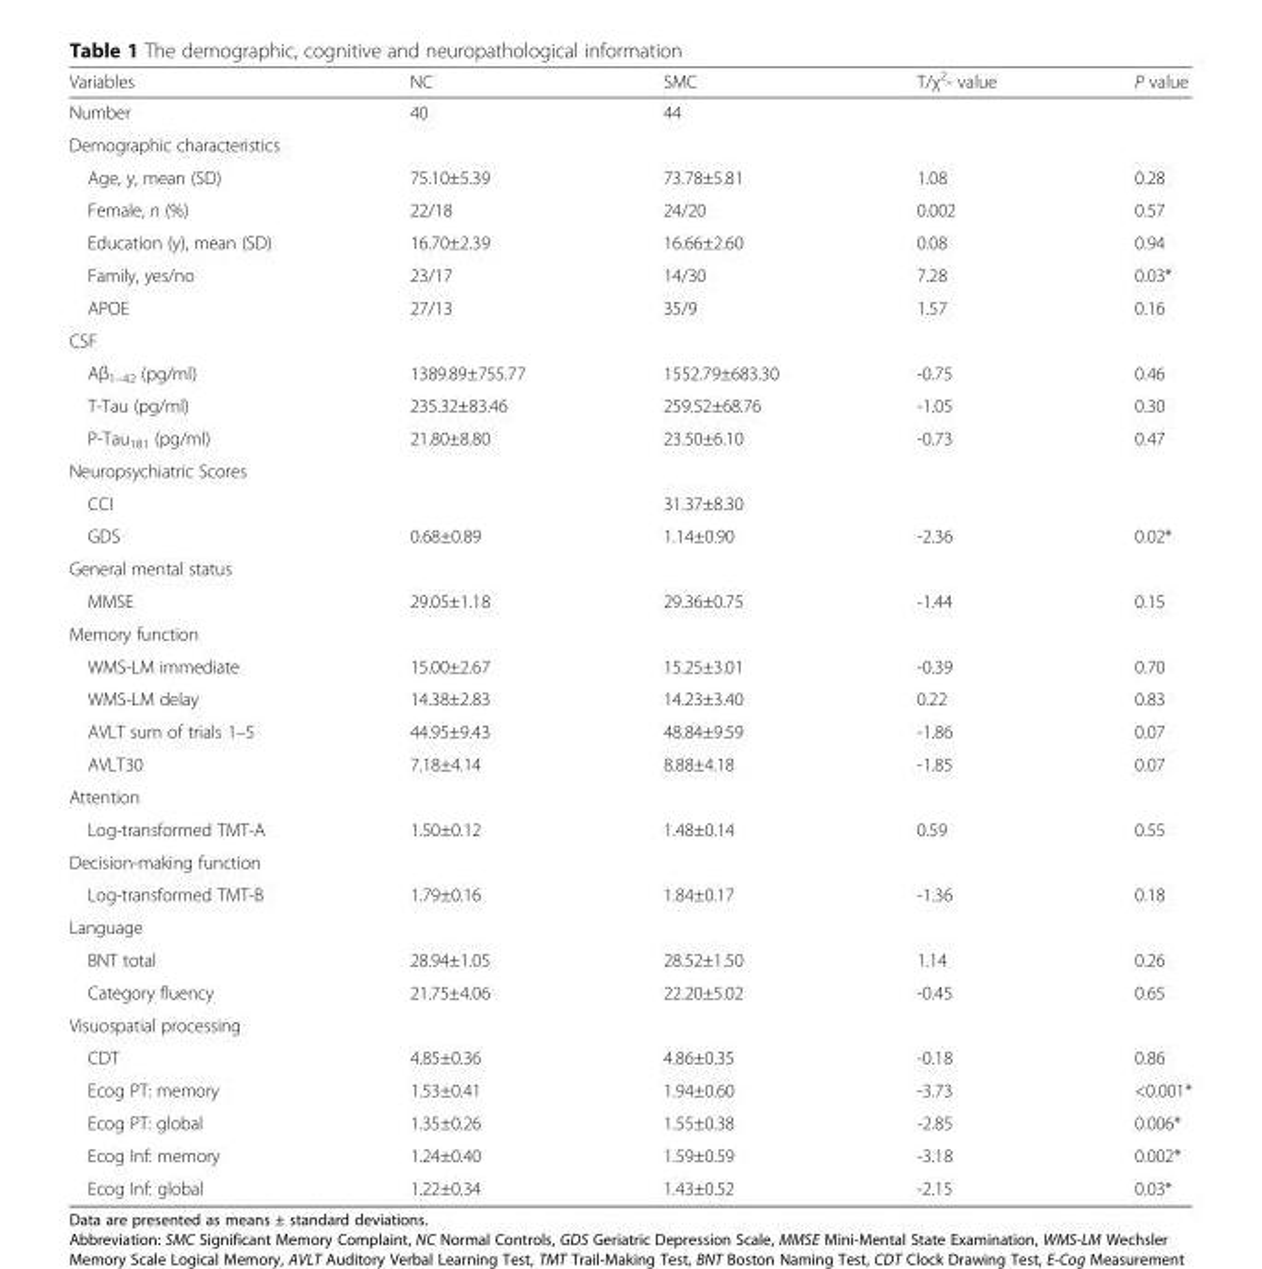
<table><thead><tr><td>Variables</td><td>NC</td><td>SMC</td><td>T/χ<sup>2</sup>- value</td><td>P value</td></tr></thead><tbody><tr><td>Number</td><td>40</td><td>44</td><td></td><td></td></tr><tr><td colspan="5">Demographic characteristics</td></tr><tr><td>Age, y, mean (SD)</td><td>75.10±5.39</td><td>73.78±5.81</td><td>1.08</td><td>0.28</td></tr><tr><td>Female, n (%)</td><td>22/18</td><td>24/20</td><td>0.002</td><td>0.57</td></tr><tr><td>Education (y), mean (SD)</td><td>16.70±2.39</td><td>16.66±2.60</td><td>0.08</td><td>0.94</td></tr><tr><td>Family, yes/no</td><td>23/17</td><td>14/30</td><td>7.28</td><td>0.03*</td></tr><tr><td>APOE</td><td>27/13</td><td>35/9</td><td>1.57</td><td>0.16</td></tr><tr><td colspan="5">CSF</td></tr><tr><td>Aβ<sub>1–42</sub> (pg/ml)</td><td>1389.89±755.77</td><td>1552.79±683.30</td><td>-0.75</td><td>0.46</td></tr><tr><td>T-Tau (pg/ml)</td><td>235.32±83.46</td><td>259.52±68.76</td><td>-1.05</td><td>0.30</td></tr><tr><td>P-Tau<sub>181</sub> (pg/ml)</td><td>21.80±8.80</td><td>23.50±6.10</td><td>-0.73</td><td>0.47</td></tr><tr><td colspan="5">Neuropsychiatric Scores</td></tr><tr><td>CCI</td><td></td><td>31.37±8.30</td><td colspan="2"></td></tr><tr><td>GDS</td><td>0.68±0.89</td><td>1.14±0.90</td><td>-2.36</td><td>0.02*</td></tr><tr><td colspan="5">General mental status</td></tr><tr><td>MMSE</td><td>29.05±1.18</td><td>29.36±0.75</td><td>-1.44</td><td>0.15</td></tr><tr><td colspan="5">Memory function</td></tr><tr><td>WMS-LM immediate</td><td>15.00±2.67</td><td>15.25±3.01</td><td>-0.39</td><td>0.70</td></tr><tr><td>WMS-LM delay</td><td>14.38±2.83</td><td>14.23±3.40</td><td>0.22</td><td>0.83</td></tr><tr><td>AVLT sum of trials 1–5</td><td>44.95±9.43</td><td>48.84±9.59</td><td>-1.86</td><td>0.07</td></tr><tr><td>AVLT30</td><td>7.18±4.14</td><td>8.88±4.18</td><td>-1.85</td><td>0.07</td></tr><tr><td colspan="5">Attention</td></tr><tr><td>Log-transformed TMT-A</td><td>1.50±0.12</td><td>1.48±0.14</td><td>0.59</td><td>0.55</td></tr><tr><td colspan="5">Decision-making function</td></tr><tr><td>Log-transformed TMT-B</td><td>1.79±0.16</td><td>1.84±0.17</td><td>-1.36</td><td>0.18</td></tr><tr><td colspan="5">Language</td></tr><tr><td>BNT total</td><td>28.94±1.05</td><td>28.52±1.50</td><td>1.14</td><td>0.26</td></tr><tr><td>Category fluency</td><td>21.75±4.06</td><td>22.20±5.02</td><td>-0.45</td><td>0.65</td></tr><tr><td colspan="5">Visuospatial processing</td></tr><tr><td>CDT</td><td>4.85±0.36</td><td>4.86±0.35</td><td>-0.18</td><td>0.86</td></tr><tr><td>Ecog PT: memory</td><td>1.53±0.41</td><td>1.94±0.60</td><td>-3.73</td><td>&lt;0.001*</td></tr><tr><td>Ecog PT: global</td><td>1.35±0.26</td><td>1.55±0.38</td><td>-2.85</td><td>0.006*</td></tr><tr><td>Ecog Inf: memory</td><td>1.24±0.40</td><td>1.59±0.59</td><td>-3.18</td><td>0.002*</td></tr><tr><td>Ecog Inf: global</td><td>1.22±0.34</td><td>1.43±0.52</td><td>-2.15</td><td>0.03*</td></tr></tbody></table>